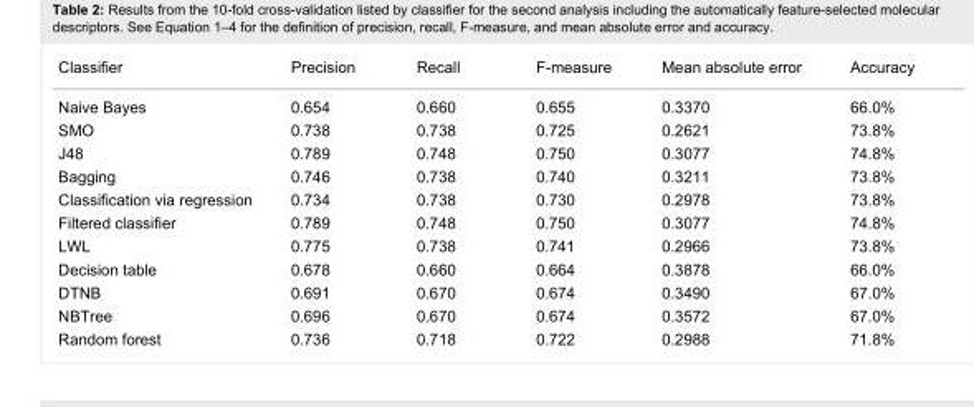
<table><tbody><tr><td>Classifier</td><td>Precision</td><td>Recall</td><td>F-measure</td><td>Mean absolute error</td><td>Accuracy</td></tr><tr><td>Naive Bayes</td><td>0.654</td><td>0.660</td><td>0.655</td><td>0.3370</td><td>66.0%</td></tr><tr><td>SMO</td><td>0.738</td><td>0.738</td><td>0.725</td><td>0.2621</td><td>73.8%</td></tr><tr><td>J48</td><td>0.789</td><td>0.748</td><td>0.750</td><td>0.3077</td><td>74.8%</td></tr><tr><td>Bagging</td><td>0.746</td><td>0.738</td><td>0.740</td><td>0.3211</td><td>73.8%</td></tr><tr><td>Classification via regression</td><td>0.734</td><td>0.738</td><td>0.730</td><td>0.2978</td><td>73.8%</td></tr><tr><td>Filtered classifier</td><td>0.789</td><td>0.748</td><td>0.750</td><td>0.3077</td><td>74.8%</td></tr><tr><td>LWL</td><td>0.775</td><td>0.738</td><td>0.741</td><td>0.2966</td><td>73.8%</td></tr><tr><td>Decision table</td><td>0.678</td><td>0.660</td><td>0.664</td><td>0.3878</td><td>66.0%</td></tr><tr><td>DTNB</td><td>0.691</td><td>0.670</td><td>0.674</td><td>0.3490</td><td>67.0%</td></tr><tr><td>NBTree</td><td>0.696</td><td>0.670</td><td>0.674</td><td>0.3572</td><td>67.0%</td></tr><tr><td>Random forest</td><td>0.736</td><td>0.718</td><td>0.722</td><td>0.2988</td><td>71.8%</td></tr></tbody></table>